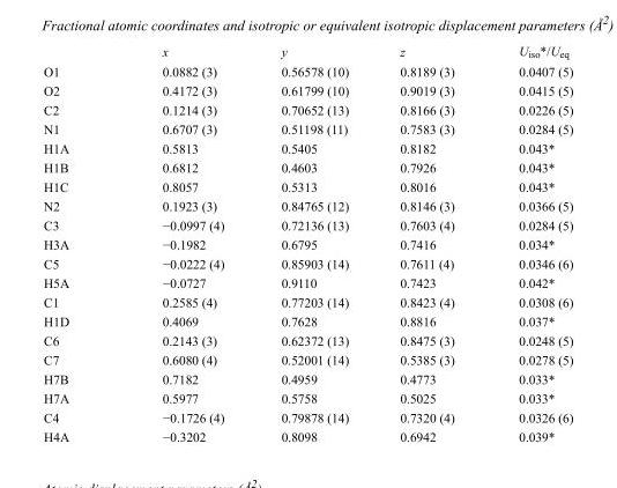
<table><thead><tr><td></td><td>x</td><td>y</td><td>z</td><td>U<sub>iso</sub>*/U<sub>eq</sub></td></tr></thead><tbody><tr><td>O1</td><td>0.0882 (3)</td><td>0.56578 (10)</td><td>0.8189 (3)</td><td>0.0407 (5)</td></tr><tr><td>O2</td><td>0.4172 (3)</td><td>0.61799 (10)</td><td>0.9019 (3)</td><td>0.0415 (5)</td></tr><tr><td>C2</td><td>0.1214 (3)</td><td>0.70652 (13)</td><td>0.8166 (3)</td><td>0.0226 (5)</td></tr><tr><td>N1</td><td>0.6707 (3)</td><td>0.51198 (11)</td><td>0.7583 (3)</td><td>0.0284 (5)</td></tr><tr><td>H1A</td><td>0.5813</td><td>0.5405</td><td>0.8182</td><td>0.043*</td></tr><tr><td>H1B</td><td>0.6812</td><td>0.4603</td><td>0.7926</td><td>0.043*</td></tr><tr><td>H1C</td><td>0.8057</td><td>0.5313</td><td>0.8016</td><td>0.043*</td></tr><tr><td>N2</td><td>0.1923 (3)</td><td>0.84765 (12)</td><td>0.8146 (3)</td><td>0.0366 (5)</td></tr><tr><td>C3</td><td>−0.0997 (4)</td><td>0.72136 (13)</td><td>0.7603 (4)</td><td>0.0284 (5)</td></tr><tr><td>H3A</td><td>−0.1982</td><td>0.6795</td><td>0.7416</td><td>0.034*</td></tr><tr><td>C5</td><td>−0.0222 (4)</td><td>0.85903 (14)</td><td>0.7611 (4)</td><td>0.0346 (6)</td></tr><tr><td>H5A</td><td>−0.0727</td><td>0.9110</td><td>0.7423</td><td>0.042*</td></tr><tr><td>C1</td><td>0.2585 (4)</td><td>0.77203 (14)</td><td>0.8423 (4)</td><td>0.0308 (6)</td></tr><tr><td>H1D</td><td>0.4069</td><td>0.7628</td><td>0.8816</td><td>0.037*</td></tr><tr><td>C6</td><td>0.2143 (3)</td><td>0.62372 (13)</td><td>0.8475 (3)</td><td>0.0248 (5)</td></tr><tr><td>C7</td><td>0.6080 (4)</td><td>0.52001 (14)</td><td>0.5385 (3)</td><td>0.0278 (5)</td></tr><tr><td>H7B</td><td>0.7182</td><td>0.4959</td><td>0.4773</td><td>0.033*</td></tr><tr><td>H7A</td><td>0.5977</td><td>0.5758</td><td>0.5025</td><td>0.033*</td></tr><tr><td>C4</td><td>−0.1726 (4)</td><td>0.79878 (14)</td><td>0.7320 (4)</td><td>0.0326 (6)</td></tr><tr><td>H4A</td><td>−0.3202</td><td>0.8098</td><td>0.6942</td><td>0.039*</td></tr></tbody></table>